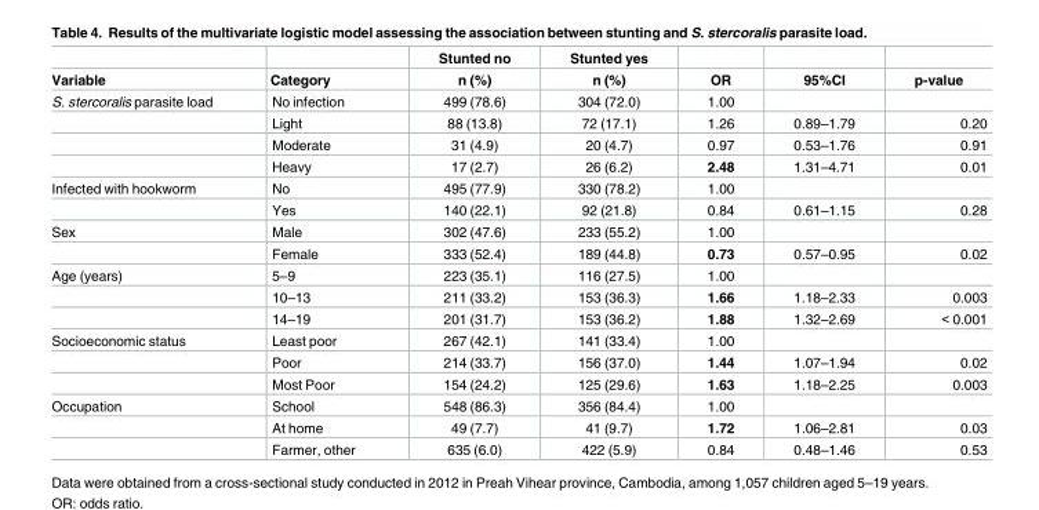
<table><thead><tr><td rowspan="2">Variable</td><td rowspan="2">Category</td><td rowspan="2">Stunted no n (%)</td><td rowspan="2">Stunted yes n (%)</td><td rowspan="2">OR</td><td rowspan="2">95%CI</td><td rowspan="2">p-value</td></tr><tr></tr></thead><tbody><tr><td rowspan="4">S. stercoralis parasite load</td><td>No infection</td><td>499 (78.6)</td><td>304 (72.0)</td><td>1.00</td><td></td><td></td></tr><tr><td>Light</td><td>88 (13.8)</td><td>72 (17.1)</td><td>1.26</td><td>0.89–1.79</td><td>0.20</td></tr><tr><td>Moderate</td><td>31 (4.9)</td><td>20 (4.7)</td><td>0.97</td><td>0.53–1.76</td><td>0.91</td></tr><tr><td>Heavy</td><td>17 (2.7)</td><td>26 (6.2)</td><td>2.48</td><td>1.31–4.71</td><td>0.01</td></tr><tr><td rowspan="2">Infected with hookworm</td><td>No</td><td>495 (77.9)</td><td>330 (78.2)</td><td>1.00</td><td></td><td></td></tr><tr><td>Yes</td><td>140 (22.1)</td><td>92 (21.8)</td><td>0.84</td><td>0.61–1.15</td><td>0.28</td></tr><tr><td rowspan="2">Sex</td><td>Male</td><td>302 (47.6)</td><td>233 (55.2)</td><td>1.00</td><td></td><td></td></tr><tr><td>Female</td><td>333 (52.4)</td><td>189 (44.8)</td><td>0.73</td><td>0.57–0.95</td><td>0.02</td></tr><tr><td rowspan="3">Age (years)</td><td>5–9</td><td>223 (35.1)</td><td>116 (27.5)</td><td>1.00</td><td></td><td></td></tr><tr><td>10–13</td><td>211 (33.2)</td><td>153 (36.3)</td><td>1.66</td><td>1.18–2.33</td><td>0.003</td></tr><tr><td>14–19</td><td>201 (31.7)</td><td>153 (36.2)</td><td>1.88</td><td>1.32–2.69</td><td>&lt; 0.001</td></tr><tr><td rowspan="3">Socioeconomic status</td><td>Least poor</td><td>267 (42.1)</td><td>141 (33.4)</td><td>1.00</td><td></td><td></td></tr><tr><td>Poor</td><td>214 (33.7)</td><td>156 (37.0)</td><td>1.44</td><td>1.07–1.94</td><td>0.02</td></tr><tr><td>Most Poor</td><td>154 (24.2)</td><td>125 (29.6)</td><td>1.63</td><td>1.18–2.25</td><td>0.003</td></tr><tr><td rowspan="3">Occupation</td><td>School</td><td>548 (86.3)</td><td>356 (84.4)</td><td>1.00</td><td></td><td></td></tr><tr><td>At home</td><td>49 (7.7)</td><td>41 (9.7)</td><td>1.72</td><td>1.06–2.81</td><td>0.03</td></tr><tr><td>Farmer, other</td><td>635 (6.0)</td><td>422 (5.9)</td><td>0.84</td><td>0.48–1.46</td><td>0.53</td></tr></tbody></table>